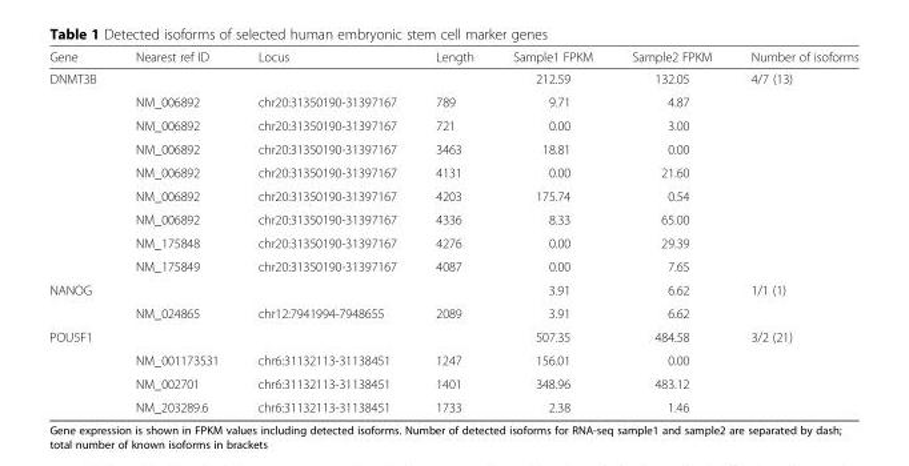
<table><thead><tr><td>Gene</td><td>Nearest ref ID</td><td>Locus</td><td>Length</td><td>Sample1 FPKM</td><td>Sample2 FPKM</td><td>Number of isoforms</td></tr></thead><tbody><tr><td rowspan="9">DNMT3B</td><td></td><td></td><td></td><td>212.59</td><td>132.05</td><td>4/7 (13)</td></tr><tr><td>NM_006892</td><td>chr20:31350190-31397167</td><td>789</td><td>9.71</td><td>4.87</td><td></td></tr><tr><td>NM_006892</td><td>chr20:31350190-31397167</td><td>721</td><td>0.00</td><td>3.00</td><td></td></tr><tr><td>NM_006892</td><td>chr20:31350190-31397167</td><td>3463</td><td>18.81</td><td>0.00</td><td></td></tr><tr><td>NM_006892</td><td>chr20:31350190-31397167</td><td>4131</td><td>0.00</td><td>21.60</td><td></td></tr><tr><td>NM_006892</td><td>chr20:31350190-31397167</td><td>4203</td><td>175.74</td><td>0.54</td><td></td></tr><tr><td>NM_006892</td><td>chr20:31350190-31397167</td><td>4336</td><td>8.33</td><td>65.00</td><td></td></tr><tr><td>NM_175848</td><td>chr20:31350190-31397167</td><td>4276</td><td>0.00</td><td>29.39</td><td></td></tr><tr><td>NM_175849</td><td>chr20:31350190-31397167</td><td>4087</td><td>0.00</td><td>7.65</td><td></td></tr><tr><td rowspan="2">NANOG</td><td></td><td></td><td></td><td>3.91</td><td>6.62</td><td>1/1 (1)</td></tr><tr><td>NM_024865</td><td>chr12:7941994-7948655</td><td>2089</td><td>3.91</td><td>6.62</td><td></td></tr><tr><td rowspan="4">POU5F1</td><td></td><td></td><td></td><td>507.35</td><td>484.58</td><td>3/2 (21)</td></tr><tr><td>NM_001173531</td><td>chr6:31132113-31138451</td><td>1247</td><td>156.01</td><td>0.00</td><td></td></tr><tr><td>NM_002701</td><td>chr6:31132113-31138451</td><td>1401</td><td>348.96</td><td>483.12</td><td></td></tr><tr><td>NM_203289.6</td><td>chr6:31132113-31138451</td><td>1733</td><td>2.38</td><td>1.46</td><td></td></tr></tbody></table>